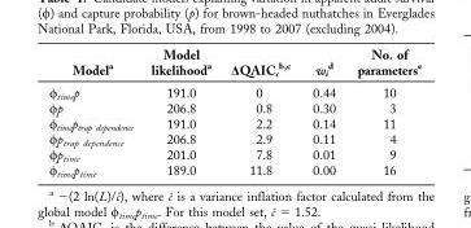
<table><thead><tr><td>Model<sup>a</sup></td><td>Model likelihood<sup>a</sup></td><td>ΔQAIC<sub>c</sub> <sup>b</sup>,<sup>c</sup></td><td>w<sub>i</sub> <sup>d</sup></td><td>No. of parameterse</td></tr></thead><tbody><tr><td>ϕ<sub>time</sub>p</td><td>191.0</td><td>0</td><td>0.44</td><td>10</td></tr><tr><td>ϕp</td><td>206.8</td><td>0.8</td><td>0.30</td><td>3</td></tr><tr><td>ϕ<sub>time</sub>p<sub>trap dependence</sub></td><td>191.0</td><td>2.2</td><td>0.14</td><td>11</td></tr><tr><td>ϕp<sub>trap dependence</sub></td><td>206.8</td><td>2.9</td><td>0.11</td><td>4</td></tr><tr><td>ϕp<sub>time</sub></td><td>201.0</td><td>7.8</td><td>0.01</td><td>9</td></tr><tr><td>ϕ<sub>time</sub>p<sub>time</sub></td><td>189.0</td><td>11.8</td><td>0.00</td><td>16</td></tr></tbody></table>